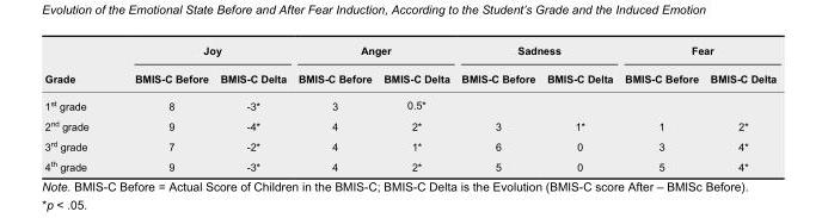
<table><thead><tr><td rowspan="2">Grade</td><td colspan="2">Joy</td><td colspan="2">Anger</td><td colspan="2">Sadness</td><td colspan="2">Fear</td></tr><tr><td>BMIS-C Before</td><td>BMIS-C Delta</td><td>BMIS-C Before</td><td>BMIS-C Delta</td><td>BMIS-C Before</td><td>BMIS-C Delta</td><td>BMIS-C Before</td><td>BMIS-C Delta</td></tr></thead><tbody><tr><td>1<sup>st</sup> grade</td><td>8</td><td>-3*</td><td>3</td><td>0.5*</td><td></td><td></td><td></td><td></td></tr><tr><td>2<sup>nd</sup> grade</td><td>9</td><td>-4*</td><td>4</td><td>2*</td><td>3</td><td>1*</td><td>1</td><td>2*</td></tr><tr><td>3<sup>rd</sup> grade</td><td>7</td><td>-2*</td><td>4</td><td>1*</td><td>6</td><td>0</td><td>3</td><td>4*</td></tr><tr><td>4<sup>th</sup> grade</td><td>9</td><td>-3*</td><td>4</td><td>2*</td><td>5</td><td>0</td><td>5</td><td>4*</td></tr></tbody></table>